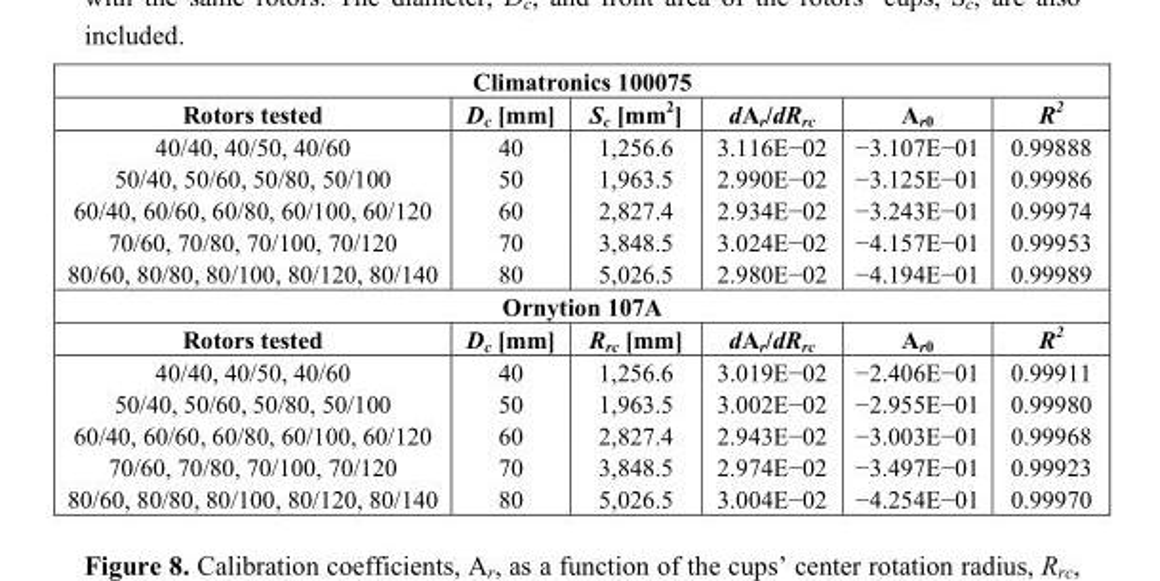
<table><thead><tr><td colspan="6">Climatronics 100075</td></tr><tr><td>Rotors tested</td><td>D<sub>c</sub> [mm]</td><td>S<sub>c</sub> [mm<sup>2</sup>]</td><td>dA<sub>r</sub>/dR<sub>rc</sub></td><td>A<sub>r0</sub></td><td>R<sup>2</sup></td></tr></thead><tbody><tr><td>40/40, 40/50, 40/60</td><td>40</td><td>1,256.6</td><td>3.116E−02</td><td>−3.107E−01</td><td>0.99888</td></tr><tr><td>50/40, 50/60, 50/80, 50/100</td><td>50</td><td>1,963.5</td><td>2.990E−02</td><td>−3.125E−01</td><td>0.99986</td></tr><tr><td>60/40, 60/60, 60/80, 60/100, 60/120</td><td>60</td><td>2,827.4</td><td>2.934E−02</td><td>−3.243E−01</td><td>0.99974</td></tr><tr><td>70/60, 70/80, 70/100, 70/120</td><td>70</td><td>3,848.5</td><td>3.024E−02</td><td>−4.157E−01</td><td>0.99953</td></tr><tr><td>80/60, 80/80, 80/100, 80/120, 80/140</td><td>80</td><td>5,026.5</td><td>2.980E−02</td><td>−4.194E−01</td><td>0.99989</td></tr><tr><td colspan="6">Ornytion 107A</td></tr><tr><td>Rotors tested</td><td>D<sub>c</sub> [mm]</td><td>R<sub>rc</sub> [mm]</td><td>dA<sub>r</sub>/dR<sub>rc</sub></td><td>A<sub>r0</sub></td><td>R<sup>2</sup></td></tr><tr><td>40/40, 40/50, 40/60</td><td>40</td><td>1,256.6</td><td>3.019E−02</td><td>−2.406E−01</td><td>0.99911</td></tr><tr><td>50/40, 50/60, 50/80, 50/100</td><td>50</td><td>1,963.5</td><td>3.002E−02</td><td>−2.955E−01</td><td>0.99980</td></tr><tr><td>60/40, 60/60, 60/80, 60/100, 60/120</td><td>60</td><td>2,827.4</td><td>2.943E−02</td><td>−3.003E−01</td><td>0.99968</td></tr><tr><td>70/60, 70/80, 70/100, 70/120</td><td>70</td><td>3,848.5</td><td>2.974E−02</td><td>−3.497E−01</td><td>0.99923</td></tr><tr><td>80/60, 80/80, 80/100, 80/120, 80/140</td><td>80</td><td>5,026.5</td><td>3.004E−02</td><td>−4.254E−01</td><td>0.99970</td></tr></tbody></table>